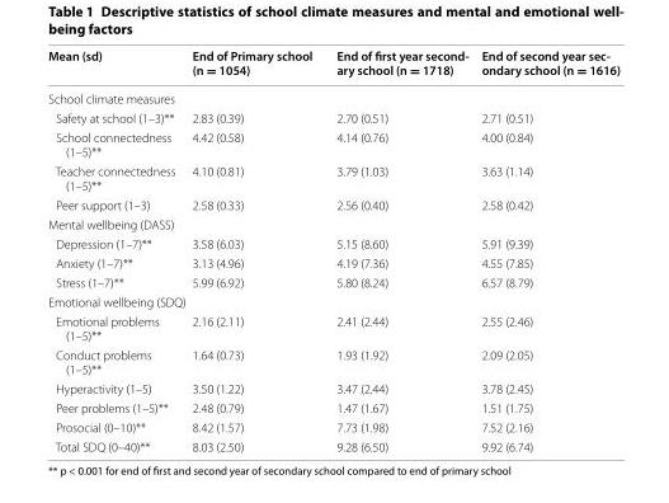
<table><thead><tr><td>Mean (sd)</td><td>End of Primary school (n = 1054)</td><td>End of first year second- ary school (n = 1718)</td><td>End of second year sec- ondary school (n = 1616)</td></tr></thead><tbody><tr><td colspan="4">School climate measures</td></tr><tr><td>Safety at school (1–3)**</td><td>2.83 (0.39)</td><td>2.70 (0.51)</td><td>2.71 (0.51)</td></tr><tr><td>School connectedness (1–5)**</td><td>4.42 (0.58)</td><td>4.14 (0.76)</td><td>4.00 (0.84)</td></tr><tr><td>Teacher connectedness (1–5)**</td><td>4.10 (0.81)</td><td>3.79 (1.03)</td><td>3.63 (1.14)</td></tr><tr><td>Peer support (1–3)</td><td>2.58 (0.33)</td><td>2.56 (0.40)</td><td>2.58 (0.42)</td></tr><tr><td colspan="4">Mental wellbeing (DASS)</td></tr><tr><td>Depression (1–7)**</td><td>3.58 (6.03)</td><td>5.15 (8.60)</td><td>5.91 (9.39)</td></tr><tr><td>Anxiety (1–7)**</td><td>3.13 (4.96)</td><td>4.19 (7.36)</td><td>4.55 (7.85)</td></tr><tr><td>Stress (1–7)**</td><td>5.99 (6.92)</td><td>5.80 (8.24)</td><td>6.57 (8.79)</td></tr><tr><td colspan="4">Emotional wellbeing (SDQ)</td></tr><tr><td>Emotional problems (1–5)**</td><td>2.16 (2.11)</td><td>2.41 (2.44)</td><td>2.55 (2.46)</td></tr><tr><td>Conduct problems (1–5)**</td><td>1.64 (0.73)</td><td>1.93 (1.92)</td><td>2.09 (2.05)</td></tr><tr><td>Hyperactivity (1–5)</td><td>3.50 (1.22)</td><td>3.47 (2.44)</td><td>3.78 (2.45)</td></tr><tr><td>Peer problems (1–5)**</td><td>2.48 (0.79)</td><td>1.47 (1.67)</td><td>1.51 (1.75)</td></tr><tr><td>Prosocial (0–10)**</td><td>8.42 (1.57)</td><td>7.73 (1.98)</td><td>7.52 (2.16)</td></tr><tr><td>Total SDQ (0–40)**</td><td>8.03 (2.50)</td><td>9.28 (6.50)</td><td>9.92 (6.74)</td></tr></tbody></table>